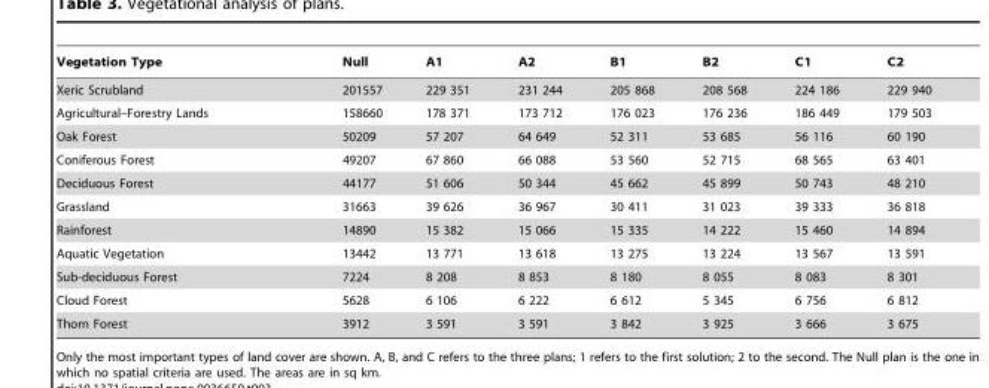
<table><thead><tr><td>Vegetation Type</td><td>Null</td><td>A1</td><td>A2</td><td>B1</td><td>B2</td><td>C1</td><td>C2</td></tr></thead><tbody><tr><td>Xeric Scrubland</td><td>201557</td><td>229 351</td><td>231 244</td><td>205 868</td><td>208 568</td><td>224 186</td><td>229 940</td></tr><tr><td>Agricultural–Forestry Lands</td><td>158660</td><td>178 371</td><td>173 712</td><td>176 023</td><td>176 236</td><td>186 449</td><td>179 503</td></tr><tr><td>Oak Forest</td><td>50209</td><td>57 207</td><td>64 649</td><td>52 311</td><td>53 685</td><td>56 116</td><td>60 190</td></tr><tr><td>Coniferous Forest</td><td>49207</td><td>67 860</td><td>66 088</td><td>53 560</td><td>52 715</td><td>68 565</td><td>63 401</td></tr><tr><td>Deciduous Forest</td><td>44177</td><td>51 606</td><td>50 344</td><td>45 662</td><td>45 899</td><td>50 743</td><td>48 210</td></tr><tr><td>Grassland</td><td>31663</td><td>39 626</td><td>36 967</td><td>30 411</td><td>31 023</td><td>39 333</td><td>36 818</td></tr><tr><td>Rainforest</td><td>14890</td><td>15 382</td><td>15 066</td><td>15 335</td><td>14 222</td><td>15 460</td><td>14 894</td></tr><tr><td>Aquatic Vegetation</td><td>13442</td><td>13 771</td><td>13 618</td><td>13 275</td><td>13 224</td><td>13 567</td><td>13 591</td></tr><tr><td>Sub-deciduous Forest</td><td>7224</td><td>8 208</td><td>8 853</td><td>8 180</td><td>8 055</td><td>8 083</td><td>8 301</td></tr><tr><td>Cloud Forest</td><td>5628</td><td>6 106</td><td>6 222</td><td>6 612</td><td>5 345</td><td>6 756</td><td>6 812</td></tr><tr><td>Thorn Forest</td><td>3912</td><td>3 591</td><td>3 591</td><td>3 842</td><td>3 925</td><td>3 666</td><td>3 675</td></tr></tbody></table>